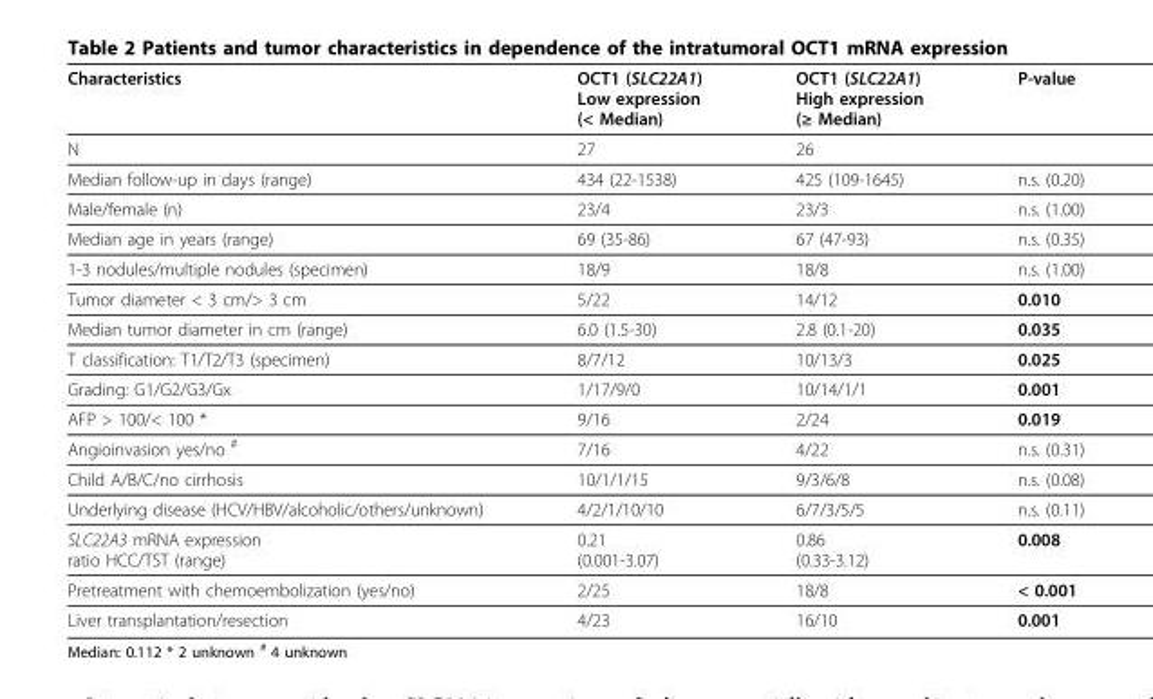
<table><thead><tr><td>Characteristics</td><td>OCT1 (SLC22A1) Low expression (&lt; Median)</td><td>OCT1 (SLC22A1) High expression (≥ Median)</td><td>P-value</td></tr></thead><tbody><tr><td>N</td><td>27</td><td>26</td><td></td></tr><tr><td>Median follow-up in days (range)</td><td>434 (22-1538)</td><td>425 (109-1645)</td><td>n.s. (0.20)</td></tr><tr><td>Male/female (n)</td><td>23/4</td><td>23/3</td><td>n.s. (1.00)</td></tr><tr><td>Median age in years (range)</td><td>69 (35-86)</td><td>67 (47-93)</td><td>n.s. (0.35)</td></tr><tr><td>1-3 nodules/multiple nodules (specimen)</td><td>18/9</td><td>18/8</td><td>n.s. (1.00)</td></tr><tr><td>Tumor diameter &lt; 3 cm/&gt; 3 cm</td><td>5/22</td><td>14/12</td><td>0.010</td></tr><tr><td>Median tumor diameter in cm (range)</td><td>6.0 (1.5-30)</td><td>2.8 (0.1-20)</td><td>0.035</td></tr><tr><td>T classification: T1/T2/T3 (specimen)</td><td>8/7/12</td><td>10/13/3</td><td>0.025</td></tr><tr><td>Grading: G1/G2/G3/Gx</td><td>1/17/9/0</td><td>10/14/1/1</td><td>0.001</td></tr><tr><td>AFP &gt; 100/&lt; 100 *</td><td>9/16</td><td>2/24</td><td>0.019</td></tr><tr><td>Angioinvasion yes/no <sup>#</sup></td><td>7/16</td><td>4/22</td><td>n.s. (0.31)</td></tr><tr><td>Child A/B/C/no cirrhosis</td><td>10/1/1/15</td><td>9/3/6/8</td><td>n.s. (0.08)</td></tr><tr><td>Underlying disease (HCV/HBV/alcoholic/others/unknown)</td><td>4/2/1/10/10</td><td>6/7/3/5/5</td><td>n.s. (0.11)</td></tr><tr><td>SLC22A3 mRNA expression ratio HCC/TST (range)</td><td>0.21 (0.001-3.07)</td><td>0.86 (0.33-3.12)</td><td>0.008</td></tr><tr><td>Pretreatment with chemoembolization (yes/no)</td><td>2/25</td><td>18/8</td><td>&lt; 0.001</td></tr><tr><td>Liver transplantation/resection</td><td>4/23</td><td>16/10</td><td>0.001</td></tr></tbody></table>